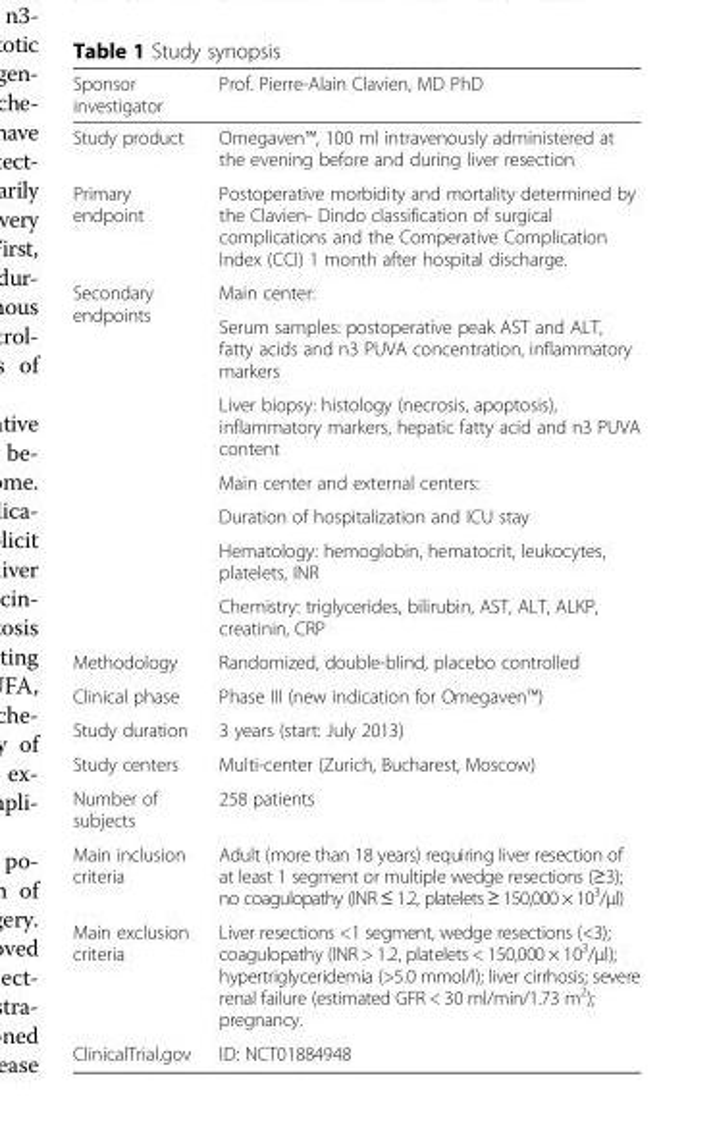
<table><thead><tr><td>Sponsor investigator</td><td>Prof. Pierre-Alain Clavien, MD PhD</td></tr></thead><tbody><tr><td>Study product</td><td>Omegaven™, 100 ml intravenously administered at the evening before and during liver resection</td></tr><tr><td>Primary endpoint</td><td>Postoperative morbidity and mortality determined by the Clavien- Dindo classification of surgical complications and the Comperative Complication Index (CCI) 1 month after hospital discharge.</td></tr><tr><td rowspan="7">Secondary endpoints</td><td>Main center:</td></tr><tr><td>Serum samples: postoperative peak AST and ALT, fatty acids and n3 PUVA concentration, inflammatory markers</td></tr><tr><td>Liver biopsy: histology (necrosis, apoptosis), inflammatory markers, hepatic fatty acid and n3 PUVA content</td></tr><tr><td>Main center and external centers:</td></tr><tr><td>Duration of hospitalization and ICU stay</td></tr><tr><td>Hematology: hemoglobin, hematocrit, leukocytes, platelets, INR</td></tr><tr><td>Chemistry: triglycerides, bilirubin, AST, ALT, ALKP, creatinin, CRP</td></tr><tr><td>Methodology</td><td>Randomized, double-blind, placebo controlled</td></tr><tr><td>Clinical phase</td><td>Phase III (new indication for Omegaven™)</td></tr><tr><td>Study duration</td><td>3 years (start: July 2013)</td></tr><tr><td>Study centers</td><td>Multi-center (Zurich, Bucharest, Moscow)</td></tr><tr><td>Number of subjects</td><td>258 patients</td></tr><tr><td>Main inclusion criteria</td><td>Adult (more than 18 years) requiring liver resection of at least 1 segment or multiple wedge resections (≥3); no coagulopathy (INR ≤ 1.2, platelets ≥ 150,000 × 10<sup>3</sup>/μl)</td></tr><tr><td>Main exclusion criteria</td><td>Liver resections &lt;1 segment, wedge resections (&lt;3); coagulopathy (INR &gt; 1.2, platelets &lt; 150,000 × 10<sup>3</sup>/μl); hypertriglyceridemia (&gt;5.0 mmol/l); liver cirrhosis; severe renal failure (estimated GFR &lt; 30 ml/min/1.73 m<sup>2</sup>); pregnancy.</td></tr><tr><td>ClinicalTrial.gov</td><td>ID: NCT01884948</td></tr></tbody></table>